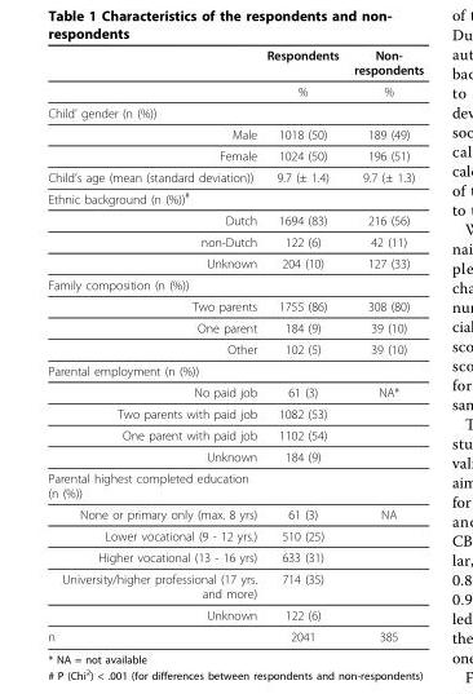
<table><thead><tr><td></td><td>Respondents</td><td>Non- respondents</td></tr></thead><tbody><tr><td></td><td>%</td><td>%</td></tr><tr><td colspan="3">Child’ gender (n (%))</td></tr><tr><td>Male</td><td>1018 (50)</td><td>189 (49)</td></tr><tr><td>Female</td><td>1024 (50)</td><td>196 (51)</td></tr><tr><td>Child’s age (mean (standard deviation))</td><td>9.7 (± 1.4)</td><td>9.7 (± 1.3)</td></tr><tr><td colspan="3">Ethnic background (n (%))<sup>#</sup></td></tr><tr><td>Dutch</td><td>1694 (83)</td><td>216 (56)</td></tr><tr><td>non-Dutch</td><td>122 (6)</td><td>42 (11)</td></tr><tr><td>Unknown</td><td>204 (10)</td><td>127 (33)</td></tr><tr><td colspan="3">Family composition (n (%))</td></tr><tr><td>Two parents</td><td>1755 (86)</td><td>308 (80)</td></tr><tr><td>One parent</td><td>184 (9)</td><td>39 (10)</td></tr><tr><td>Other</td><td>102 (5)</td><td>39 (10)</td></tr><tr><td colspan="3">Parental employment (n (%))</td></tr><tr><td>No paid job</td><td>61 (3)</td><td>NA*</td></tr><tr><td>Two parents with paid job</td><td>1082 (53)</td><td></td></tr><tr><td>One parent with paid job</td><td>1102 (54)</td><td></td></tr><tr><td>Unknown</td><td>184 (9)</td><td></td></tr><tr><td colspan="3">Parental highest completed education (n (%))</td></tr><tr><td>None or primary only (max. 8 yrs)</td><td>61 (3)</td><td>NA</td></tr><tr><td>Lower vocational (9 - 12 yrs.)</td><td>510 (25)</td><td></td></tr><tr><td>Higher vocational (13 - 16 yrs)</td><td>633 (31)</td><td></td></tr><tr><td>University/higher professional (17 yrs. and more)</td><td>714 (35)</td><td></td></tr><tr><td>Unknown</td><td>122 (6)</td><td></td></tr><tr><td>n</td><td>2041</td><td>385</td></tr></tbody></table>